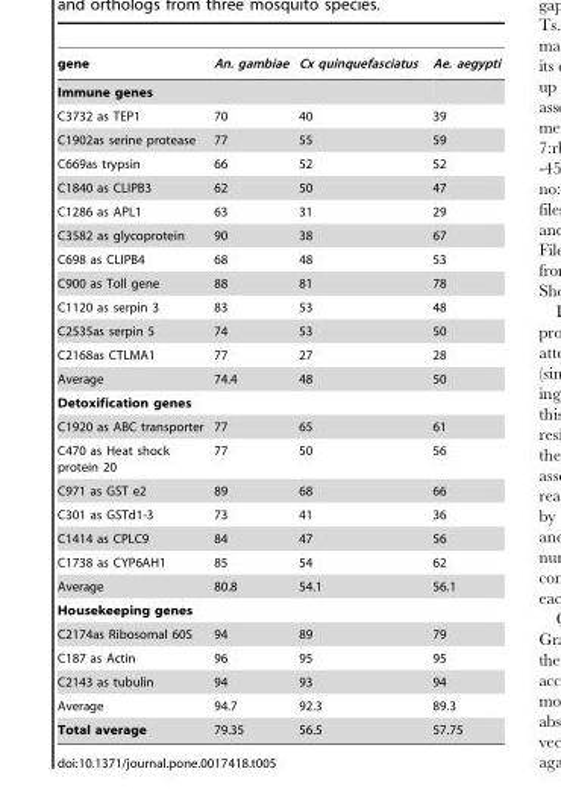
<table><thead><tr><td>gene</td><td>An. gambiae</td><td>Cx quinquefasciatus</td><td>Ae. aegypti</td></tr></thead><tbody><tr><td colspan="4">Immune genes</td></tr><tr><td>C3732 as TEP1</td><td>70</td><td>40</td><td>39</td></tr><tr><td>C1902as serine protease</td><td>77</td><td>55</td><td>59</td></tr><tr><td>C669as trypsin</td><td>66</td><td>52</td><td>52</td></tr><tr><td>C1840 as CLIPB3</td><td>62</td><td>50</td><td>47</td></tr><tr><td>C1286 as APL1</td><td>63</td><td>31</td><td>29</td></tr><tr><td>C3582 as glycoprotein</td><td>90</td><td>38</td><td>67</td></tr><tr><td>C698 as CLIPB4</td><td>68</td><td>48</td><td>53</td></tr><tr><td>C900 as Toll gene</td><td>88</td><td>81</td><td>78</td></tr><tr><td>C1120 as serpin 3</td><td>83</td><td>53</td><td>48</td></tr><tr><td>C2535as serpin 5</td><td>74</td><td>53</td><td>50</td></tr><tr><td>C2168as CTLMA1</td><td>77</td><td>27</td><td>28</td></tr><tr><td>Average</td><td>74.4</td><td>48</td><td>50</td></tr><tr><td colspan="4">Detoxification genes</td></tr><tr><td>C1920 as ABC transporter</td><td>77</td><td>65</td><td>61</td></tr><tr><td>C470 as Heat shock protein 20</td><td>77</td><td>50</td><td>56</td></tr><tr><td>C971 as GST e2</td><td>89</td><td>68</td><td>66</td></tr><tr><td>C301 as GSTd1-3</td><td>73</td><td>41</td><td>36</td></tr><tr><td>C1414 as CPLC9</td><td>84</td><td>47</td><td>56</td></tr><tr><td>C1738 as CYP6AH1</td><td>85</td><td>54</td><td>62</td></tr><tr><td>Average</td><td>80.8</td><td>54.1</td><td>56.1</td></tr><tr><td colspan="4">Housekeeping genes</td></tr><tr><td>C2174as Ribosomal 60S</td><td>94</td><td>89</td><td>79</td></tr><tr><td>C187 as Actin</td><td>96</td><td>95</td><td>95</td></tr><tr><td>C2143 as tubulin</td><td>94</td><td>93</td><td>94</td></tr><tr><td>Average</td><td>94.7</td><td>92.3</td><td>89.3</td></tr><tr><td>Total average</td><td>79.35</td><td>56.5</td><td>57.75</td></tr></tbody></table>